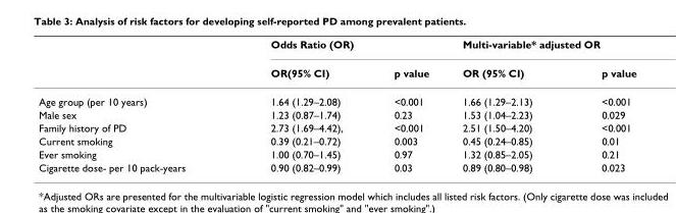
<table><thead><tr><td rowspan="2"></td><td colspan="2">Odds Ratio (OR)</td><td colspan="2">Multi-variable* adjusted OR</td></tr><tr><td>OR(95% CI)</td><td>p value</td><td>OR (95% CI)</td><td>p value</td></tr></thead><tbody><tr><td>Age group (per 10 years)</td><td>1.64 (1.29–2.08)</td><td>&lt;0.001</td><td>1.66 (1.29–2.13)</td><td>&lt;0.001</td></tr><tr><td>Male sex</td><td>1.23 (0.87–1.74)</td><td>0.23</td><td>1.53 (1.04–2.23)</td><td>0.029</td></tr><tr><td>Family history of PD</td><td>2.73 (1.69–4.42),</td><td>&lt;0.001</td><td>2.51 (1.50–4.20)</td><td>&lt;0.001</td></tr><tr><td>Current smoking</td><td>0.39 (0.21–0.72)</td><td>0.003</td><td>0.45 (0.24–0.85)</td><td>0.01</td></tr><tr><td>Ever smoking</td><td>1.00 (0.70–1.45)</td><td>0.97</td><td>1.32 (0.85–2.05)</td><td>0.21</td></tr><tr><td>Cigarette dose- per 10 pack-years</td><td>0.90 (0.82–0.99)</td><td>0.03</td><td>0.89 (0.80–0.98)</td><td>0.023</td></tr></tbody></table>